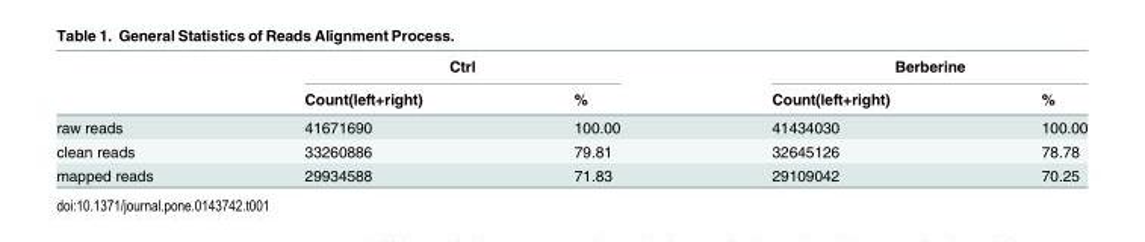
<table><thead><tr><td rowspan="2"></td><td colspan="2">Ctrl</td><td colspan="2">Berberine</td></tr><tr><td>Count(left+right)</td><td>%</td><td>Count(left+right)</td><td>%</td></tr></thead><tbody><tr><td>raw reads</td><td>41671690</td><td>100.00</td><td>41434030</td><td>100.00</td></tr><tr><td>clean reads</td><td>33260886</td><td>79.81</td><td>32645126</td><td>78.78</td></tr><tr><td>mapped reads</td><td>29934588</td><td>71.83</td><td>29109042</td><td>70.25</td></tr></tbody></table>